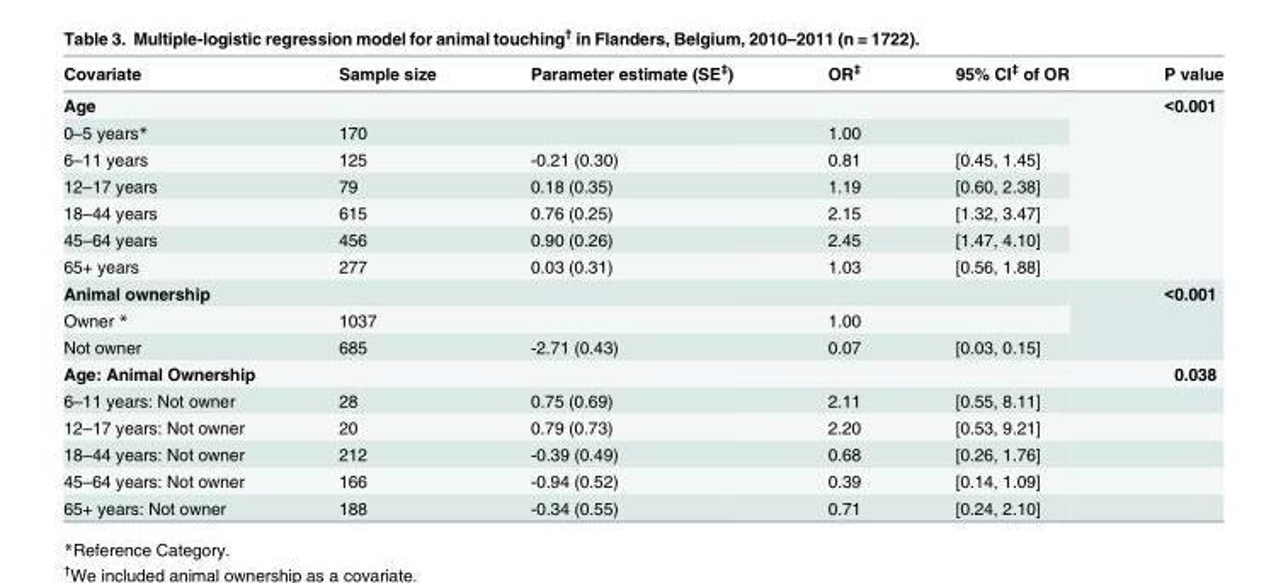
<table><thead><tr><td>Covariate</td><td>Sample size</td><td>Parameter estimate (SE<sup>‡</sup>)</td><td>OR<sup>‡</sup></td><td>95% CI<sup>‡</sup> of OR</td><td>P value</td></tr></thead><tbody><tr><td colspan="5">Age</td><td rowspan="7">&lt;0.001</td></tr><tr><td>0–5 years*</td><td>170</td><td></td><td>1.00</td><td></td></tr><tr><td>6–11 years</td><td>125</td><td>-0.21 (0.30)</td><td>0.81</td><td>[0.45, 1.45]</td></tr><tr><td>12–17 years</td><td>79</td><td>0.18 (0.35)</td><td>1.19</td><td>[0.60, 2.38]</td></tr><tr><td>18–44 years</td><td>615</td><td>0.76 (0.25)</td><td>2.15</td><td>[1.32, 3.47]</td></tr><tr><td>45–64 years</td><td>456</td><td>0.90 (0.26)</td><td>2.45</td><td>[1.47, 4.10]</td></tr><tr><td>65+ years</td><td>277</td><td>0.03 (0.31)</td><td>1.03</td><td>[0.56, 1.88]</td></tr><tr><td colspan="5">Animal ownership</td><td rowspan="2">&lt;0.001</td></tr><tr><td>Owner *</td><td>1037</td><td></td><td>1.00</td><td></td></tr><tr><td>Not owner</td><td>685</td><td>-2.71 (0.43)</td><td>0.07</td><td>[0.03, 0.15]</td><td></td></tr><tr><td colspan="3">Age: Animal Ownership</td><td></td><td></td><td>0.038</td></tr><tr><td>6–11 years: Not owner</td><td>28</td><td>0.75 (0.69)</td><td>2.11</td><td>[0.55, 8.11]</td><td></td></tr><tr><td>12–17 years: Not owner</td><td>20</td><td>0.79 (0.73)</td><td>2.20</td><td>[0.53, 9.21]</td><td></td></tr><tr><td>18–44 years: Not owner</td><td>212</td><td>-0.39 (0.49)</td><td>0.68</td><td>[0.26, 1.76]</td><td></td></tr><tr><td>45–64 years: Not owner</td><td>166</td><td>-0.94 (0.52)</td><td>0.39</td><td>[0.14, 1.09]</td><td></td></tr><tr><td>65+ years: Not owner</td><td>188</td><td>-0.34 (0.55)</td><td>0.71</td><td>[0.24, 2.10]</td><td></td></tr></tbody></table>